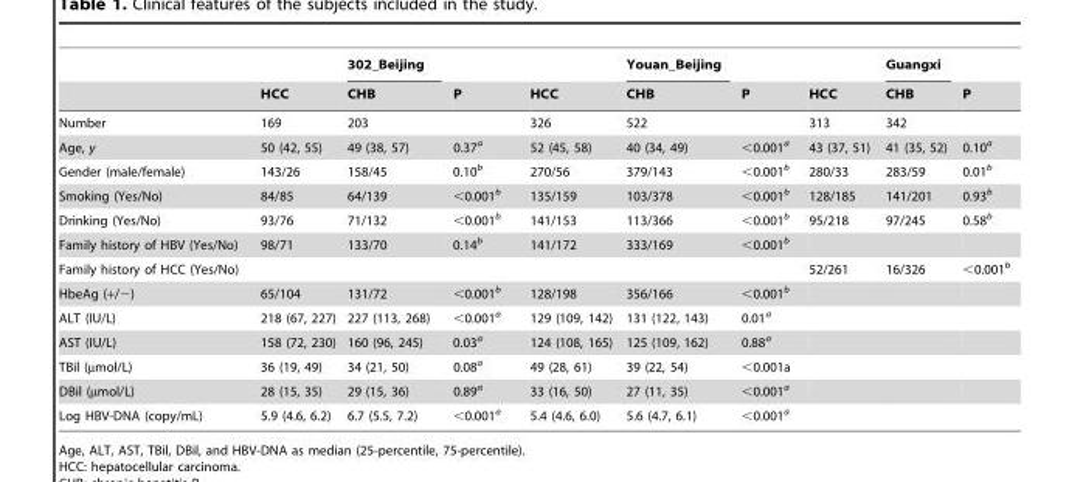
<table><thead><tr><td rowspan="2"></td><td rowspan="2">HCC</td><td rowspan="2">302_Beijing CHB</td><td rowspan="2">P</td><td rowspan="2">HCC</td><td rowspan="2">Youan_Beijing CHB</td><td rowspan="2">P</td><td rowspan="2">HCC</td><td rowspan="2">Guangxi CHB</td><td rowspan="2">P</td></tr><tr></tr></thead><tbody><tr><td>Number</td><td>169</td><td>203</td><td></td><td>326</td><td>522</td><td></td><td>313</td><td>342</td><td></td></tr><tr><td>Age, y</td><td>50 (42, 55)</td><td>49 (38, 57)</td><td>0.37<sup>a</sup></td><td>52 (45, 58)</td><td>40 (34, 49)</td><td>&lt;0.001<sup>a</sup></td><td>43 (37, 51)</td><td>41 (35, 52)</td><td>0.10<sup>a</sup></td></tr><tr><td>Gender (male/female)</td><td>143/26</td><td>158/45</td><td>0.10<sup>b</sup></td><td>270/56</td><td>379/143</td><td>&lt;0.001<sup>b</sup></td><td>280/33</td><td>283/59</td><td>0.01<sup>b</sup></td></tr><tr><td>Smoking (Yes/No)</td><td>84/85</td><td>64/139</td><td>&lt;0.001<sup>b</sup></td><td>135/159</td><td>103/378</td><td>&lt;0.001<sup>b</sup></td><td>128/185</td><td>141/201</td><td>0.93<sup>b</sup></td></tr><tr><td>Drinking (Yes/No)</td><td>93/76</td><td>71/132</td><td>&lt;0.001<sup>b</sup></td><td>141/153</td><td>113/366</td><td>&lt;0.001<sup>b</sup></td><td>95/218</td><td>97/245</td><td>0.58<sup>b</sup></td></tr><tr><td>Family history of HBV (Yes/No)</td><td>98/71</td><td>133/70</td><td>0.14<sup>b</sup></td><td>141/172</td><td>333/169</td><td>&lt;0.001<sup>b</sup></td><td></td><td></td><td></td></tr><tr><td>Family history of HCC (Yes/No)</td><td></td><td></td><td></td><td></td><td></td><td></td><td>52/261</td><td>16/326</td><td>&lt;0.001<sup>b</sup></td></tr><tr><td>HbeAg (+/−)</td><td>65/104</td><td>131/72</td><td>&lt;0.001<sup>b</sup></td><td>128/198</td><td>356/166</td><td>&lt;0.001<sup>b</sup></td><td></td><td></td><td></td></tr><tr><td>ALT (IU/L)</td><td>218 (67, 227)</td><td>227 (113, 268)</td><td>&lt;0.001<sup>a</sup></td><td>129 (109, 142)</td><td>131 (122, 143)</td><td>0.01<sup>a</sup></td><td></td><td></td><td></td></tr><tr><td>AST (IU/L)</td><td>158 (72, 230)</td><td>160 (96, 245)</td><td>0.03<sup>a</sup></td><td>124 (108, 165)</td><td>125 (109, 162)</td><td>0.88<sup>a</sup></td><td></td><td></td><td></td></tr><tr><td>TBil (µmol/L)</td><td>36 (19, 49)</td><td>34 (21, 50)</td><td>0.08<sup>a</sup></td><td>49 (28, 61)</td><td>39 (22, 54)</td><td>&lt;0.001a</td><td></td><td></td><td></td></tr><tr><td>DBil (µmol/L)</td><td>28 (15, 35)</td><td>29 (15, 36)</td><td>0.89<sup>a</sup></td><td>33 (16, 50)</td><td>27 (11, 35)</td><td>&lt;0.001<sup>a</sup></td><td></td><td></td><td></td></tr><tr><td>Log HBV-DNA (copy/mL)</td><td>5.9 (4.6, 6.2)</td><td>6.7 (5.5, 7.2)</td><td>&lt;0.001<sup>a</sup></td><td>5.4 (4.6, 6.0)</td><td>5.6 (4.7, 6.1)</td><td>&lt;0.001<sup>a</sup></td><td></td><td></td><td></td></tr></tbody></table>